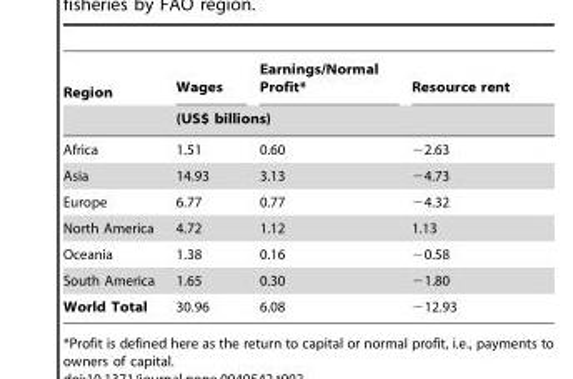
<table><thead><tr><td rowspan="2">Region</td><td>Wages</td><td>Earnings/Normal Profit*</td><td>Resource rent</td></tr><tr><td colspan="3">(US$ billions)</td></tr></thead><tbody><tr><td>Africa</td><td>1.51</td><td>0.60</td><td>−2.63</td></tr><tr><td>Asia</td><td>14.93</td><td>3.13</td><td>−4.73</td></tr><tr><td>Europe</td><td>6.77</td><td>0.77</td><td>−4.32</td></tr><tr><td>North America</td><td>4.72</td><td>1.12</td><td>1.13</td></tr><tr><td>Oceania</td><td>1.38</td><td>0.16</td><td>−0.58</td></tr><tr><td>South America</td><td>1.65</td><td>0.30</td><td>−1.80</td></tr><tr><td>World Total</td><td>30.96</td><td>6.08</td><td>−12.93</td></tr></tbody></table>